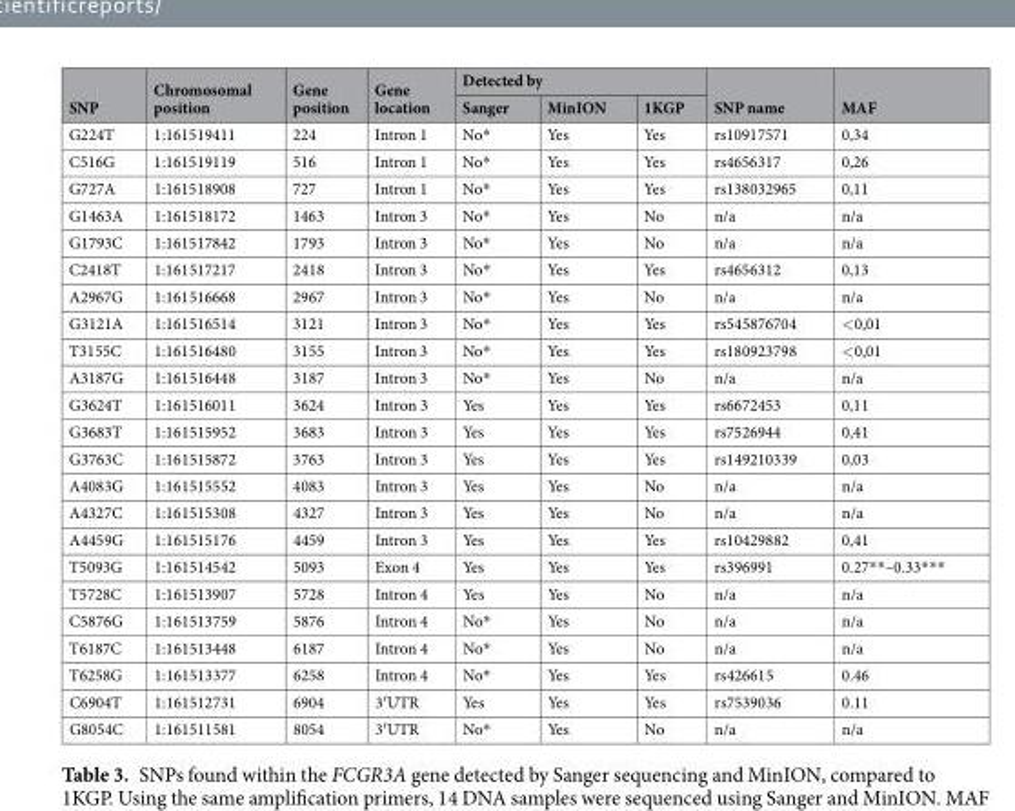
<table><thead><tr><td rowspan="2">SNP</td><td rowspan="2">Chromosomal position</td><td rowspan="2">Gene position</td><td rowspan="2">Gene location</td><td colspan="3">Detected by</td><td rowspan="2">SNP name</td><td rowspan="2">MAF</td></tr><tr><td>Sanger</td><td>MinION</td><td>1KGP</td></tr></thead><tbody><tr><td>G224T</td><td>1:161519411</td><td>224</td><td>Intron 1</td><td>No*</td><td>Yes</td><td>Yes</td><td>rs10917571</td><td>0,34</td></tr><tr><td>C516G</td><td>1:161519119</td><td>516</td><td>Intron 1</td><td>No*</td><td>Yes</td><td>Yes</td><td>rs4656317</td><td>0,26</td></tr><tr><td>G727A</td><td>1:161518908</td><td>727</td><td>Intron 1</td><td>No*</td><td>Yes</td><td>Yes</td><td>rs138032965</td><td>0,11</td></tr><tr><td>G1463A</td><td>1:161518172</td><td>1463</td><td>Intron 3</td><td>No*</td><td>Yes</td><td>No</td><td>n/a</td><td>n/a</td></tr><tr><td>G1793C</td><td>1:161517842</td><td>1793</td><td>Intron 3</td><td>No*</td><td>Yes</td><td>No</td><td>n/a</td><td>n/a</td></tr><tr><td>C2418T</td><td>1:161517217</td><td>2418</td><td>Intron 3</td><td>No*</td><td>Yes</td><td>Yes</td><td>rs4656312</td><td>0,13</td></tr><tr><td>A2967G</td><td>1:161516668</td><td>2967</td><td>Intron 3</td><td>No*</td><td>Yes</td><td>No</td><td>n/a</td><td>n/a</td></tr><tr><td>G3121A</td><td>1:161516514</td><td>3121</td><td>Intron 3</td><td>No*</td><td>Yes</td><td>Yes</td><td>rs545876704</td><td>&lt;0,01</td></tr><tr><td>T3155C</td><td>1:161516480</td><td>3155</td><td>Intron 3</td><td>No*</td><td>Yes</td><td>Yes</td><td>rs180923798</td><td>&lt;0,01</td></tr><tr><td>A3187G</td><td>1:161516448</td><td>3187</td><td>Intron 3</td><td>No*</td><td>Yes</td><td>No</td><td>n/a</td><td>n/a</td></tr><tr><td>G3624T</td><td>1:161516011</td><td>3624</td><td>Intron 3</td><td>Yes</td><td>Yes</td><td>Yes</td><td>rs6672453</td><td>0,11</td></tr><tr><td>G3683T</td><td>1:161515952</td><td>3683</td><td>Intron 3</td><td>Yes</td><td>Yes</td><td>Yes</td><td>rs7526944</td><td>0,41</td></tr><tr><td>G3763C</td><td>1:161515872</td><td>3763</td><td>Intron 3</td><td>Yes</td><td>Yes</td><td>Yes</td><td>rs149210339</td><td>0,03</td></tr><tr><td>A4083G</td><td>1:161515552</td><td>4083</td><td>Intron 3</td><td>Yes</td><td>Yes</td><td>No</td><td>n/a</td><td>n/a</td></tr><tr><td>A4327C</td><td>1:161515308</td><td>4327</td><td>Intron 3</td><td>Yes</td><td>Yes</td><td>No</td><td>n/a</td><td>n/a</td></tr><tr><td>A4459G</td><td>1:161515176</td><td>4459</td><td>Intron 3</td><td>Yes</td><td>Yes</td><td>Yes</td><td>rs10429882</td><td>0,41</td></tr><tr><td>T5093G</td><td>1:161514542</td><td>5093</td><td>Exon 4</td><td>Yes</td><td>Yes</td><td>Yes</td><td>rs396991</td><td>0.27**–0.33***</td></tr><tr><td>T5728C</td><td>1:161513907</td><td>5728</td><td>Intron 4</td><td>Yes</td><td>Yes</td><td>No</td><td>n/a</td><td>n/a</td></tr><tr><td>C5876G</td><td>1:161513759</td><td>5876</td><td>Intron 4</td><td>No*</td><td>Yes</td><td>No</td><td>n/a</td><td>n/a</td></tr><tr><td>T6187C</td><td>1:161513448</td><td>6187</td><td>Intron 4</td><td>No*</td><td>Yes</td><td>No</td><td>n/a</td><td>n/a</td></tr><tr><td>T6258G</td><td>1:161513377</td><td>6258</td><td>Intron 4</td><td>No*</td><td>Yes</td><td>Yes</td><td>rs426615</td><td>0.46</td></tr><tr><td>C6904T</td><td>1:161512731</td><td>6904</td><td>3′UTR</td><td>Yes</td><td>Yes</td><td>Yes</td><td>rs7539036</td><td>0.11</td></tr><tr><td>G8054C</td><td>1:161511581</td><td>8054</td><td>3′UTR</td><td>No*</td><td>Yes</td><td>No</td><td>n/a</td><td>n/a</td></tr></tbody></table>